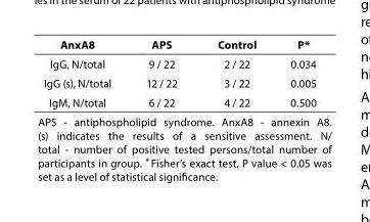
<table><thead><tr><td>AnxA8</td><td>APS</td><td>Control</td><td>P*</td></tr></thead><tbody><tr><td>IgG, N/total</td><td>9 / 22</td><td>2 / 22</td><td>0.034</td></tr><tr><td>IgG (s), N/total</td><td>12 / 22</td><td>3 / 22</td><td>0.005</td></tr><tr><td>IgM, N/total</td><td>6 / 22</td><td>4 / 22</td><td>0.500</td></tr><tr><td colspan="4">APS - antiphospholipid syndrome. AnxA8 - annexin A8. (s) indicates the results of a sensitive assessment. N/ total - number of positive tested persons/total number of participants in group. * Fisher’s exact test, P value &lt; 0.05 was set as a level of statistical significance.</td></tr></tbody></table>